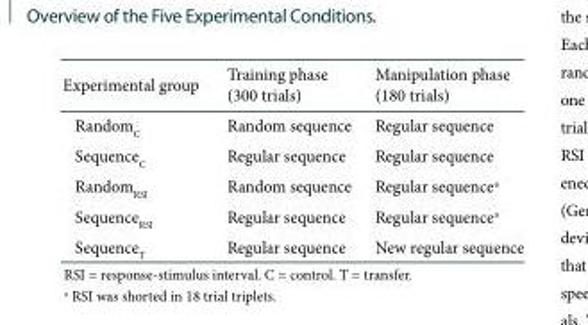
<table><thead><tr><td>Experimental group</td><td>Training phase (300 trials)</td><td>Manipulation phase (180 trials)</td></tr></thead><tbody><tr><td>Random<sub>C</sub></td><td>Random sequence</td><td>Regular sequence</td></tr><tr><td>Sequence<sub>C</sub></td><td>Regular sequence</td><td>Regular sequence</td></tr><tr><td>Random<sub>RSI</sub></td><td>Random sequence</td><td>Regular sequence<sup>a</sup></td></tr><tr><td>Sequence<sub>RSI</sub></td><td>Regular sequence</td><td>Regular sequence<sup>a</sup></td></tr><tr><td>Sequence<sub>T</sub></td><td>Regular sequence</td><td>New regular sequence</td></tr></tbody></table>